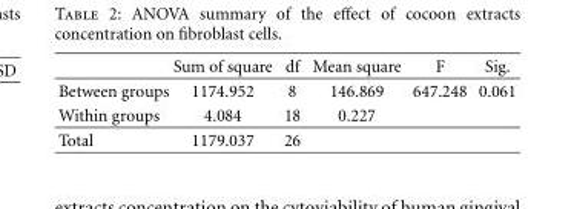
<table><thead><tr><td></td><td>Sum of square</td><td>df</td><td>Mean square</td><td>F</td><td>Sig.</td></tr></thead><tbody><tr><td>Between groups</td><td>1174.952</td><td>8</td><td>146.869</td><td>647.248</td><td>0.061</td></tr><tr><td>Within groups</td><td>4.084</td><td>18</td><td>0.227</td><td></td><td></td></tr><tr><td>Total</td><td>1179.037</td><td>26</td><td></td><td></td><td></td></tr></tbody></table>